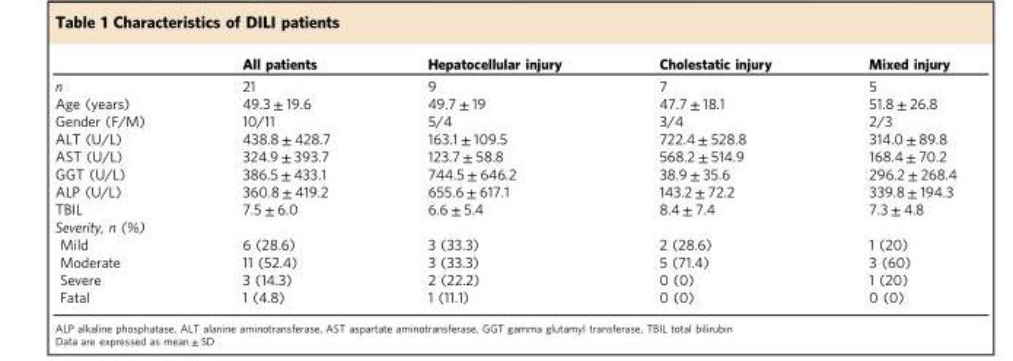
<table><thead><tr><td></td><td>All patients</td><td>Hepatocellular injury</td><td>Cholestatic injury</td><td>Mixed injury</td></tr></thead><tbody><tr><td>n</td><td>21</td><td>9</td><td>7</td><td>5</td></tr><tr><td>Age (years)</td><td>49.3 ± 19.6</td><td>49.7 ± 19</td><td>47.7 ± 18.1</td><td>51.8 ± 26.8</td></tr><tr><td>Gender (F/M)</td><td>10/11</td><td>5/4</td><td>3/4</td><td>2/3</td></tr><tr><td>ALT (U/L)</td><td>438.8 ± 428.7</td><td>163.1 ± 109.5</td><td>722.4 ± 528.8</td><td>314.0 ± 89.8</td></tr><tr><td>AST (U/L)</td><td>324.9 ± 393.7</td><td>123.7 ± 58.8</td><td>568.2 ± 514.9</td><td>168.4 ± 70.2</td></tr><tr><td>GGT (U/L)</td><td>386.5 ± 433.1</td><td>744.5 ± 646.2</td><td>38.9 ± 35.6</td><td>296.2 ± 268.4</td></tr><tr><td>ALP (U/L)</td><td>360.8 ± 419.2</td><td>655.6 ± 617.1</td><td>143.2 ± 72.2</td><td>339.8 ± 194.3</td></tr><tr><td>TBIL</td><td>7.5 ± 6.0</td><td>6.6 ± 5.4</td><td>8.4 ± 7.4</td><td>7.3 ± 4.8</td></tr><tr><td colspan="5">Severity, n (%)</td></tr><tr><td>Mild</td><td>6 (28.6)</td><td>3 (33.3)</td><td>2 (28.6)</td><td>1 (20)</td></tr><tr><td>Moderate</td><td>11 (52.4)</td><td>3 (33.3)</td><td>5 (71.4)</td><td>3 (60)</td></tr><tr><td>Severe</td><td>3 (14.3)</td><td>2 (22.2)</td><td>0 (0)</td><td>1 (20)</td></tr><tr><td>Fatal</td><td>1 (4.8)</td><td>1 (11.1)</td><td>0 (0)</td><td>0 (0)</td></tr></tbody></table>